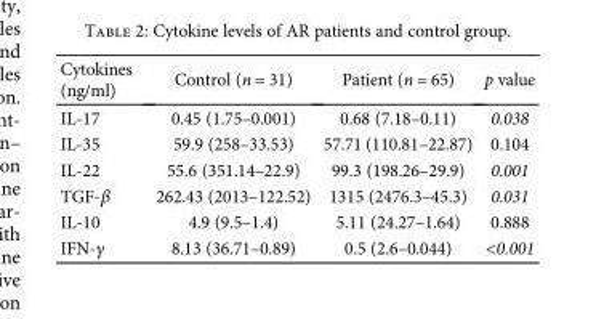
<table><thead><tr><td>Cytokines (ng/ml)</td><td>Control (n = 31)</td><td>Patient (n = 65)</td><td>p value</td></tr></thead><tbody><tr><td>IL-17</td><td>0.45 (1.75–0.001)</td><td>0.68 (7.18–0.11)</td><td>0.038</td></tr><tr><td>IL-35</td><td>59.9 (258–33.53)</td><td>57.71 (110.81–22.87)</td><td>0.104</td></tr><tr><td>IL-22</td><td>55.6 (351.14–22.9)</td><td>99.3 (198.26–29.9)</td><td>0.001</td></tr><tr><td>TGF-β</td><td>262.43 (2013–122.52)</td><td>1315 (2476.3–45.3)</td><td>0.031</td></tr><tr><td>IL-10</td><td>4.9 (9.5–1.4)</td><td>5.11 (24.27–1.64)</td><td>0.888</td></tr><tr><td>IFN-γ</td><td>8.13 (36.71–0.89)</td><td>0.5 (2.6–0.044)</td><td>&lt;0.001</td></tr></tbody></table>